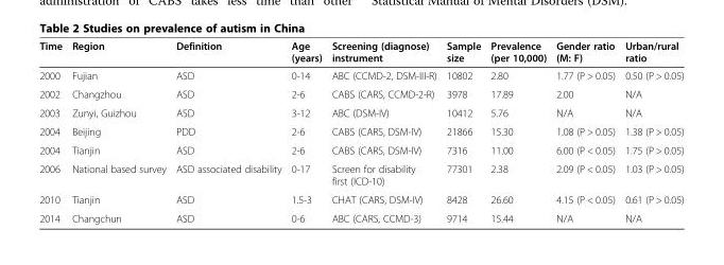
<table><thead><tr><td>Time</td><td>Region</td><td>Definition</td><td>Age (years)</td><td>Screening (diagnose) instrument</td><td>Sample size</td><td>Prevalence (per 10,000)</td><td>Gender ratio (M: F)</td><td>Urban/rural ratio</td></tr></thead><tbody><tr><td>2000</td><td>Fujian</td><td>ASD</td><td>0-14</td><td>ABC (CCMD-2, DSM-III-R)</td><td>10802</td><td>2.80</td><td>1.77 (P &gt; 0.05)</td><td>0.50 (P &gt; 0.05)</td></tr><tr><td>2002</td><td>Changzhou</td><td>ASD</td><td>2-6</td><td>CABS (CARS, CCMD-2-R)</td><td>3978</td><td>17.89</td><td>2.00</td><td>N/A</td></tr><tr><td>2003</td><td>Zunyi, Guizhou</td><td>ASD</td><td>3-12</td><td>ABC (DSM-IV)</td><td>10412</td><td>5.76</td><td>N/A</td><td>N/A</td></tr><tr><td>2004</td><td>Beijing</td><td>PDD</td><td>2-6</td><td>CABS (CARS, DSM-IV)</td><td>21866</td><td>15.30</td><td>1.08 (P &gt; 0.05)</td><td>1.38 (P &gt; 0.05)</td></tr><tr><td>2004</td><td>Tianjin</td><td>ASD</td><td>2-6</td><td>CABS (CARS, DSM-IV)</td><td>7316</td><td>11.00</td><td>6.00 (P &lt; 0.05)</td><td>1.75 (P &gt; 0.05)</td></tr><tr><td>2006</td><td>National based survey</td><td>ASD associated disability</td><td>0-17</td><td>Screen for disability first (ICD-10)</td><td>77301</td><td>2.38</td><td>2.09 (P &lt; 0.05)</td><td>1.03 (P &gt; 0.05)</td></tr><tr><td>2010</td><td>Tianjin</td><td>ASD</td><td>1.5-3</td><td>CHAT (CARS, DSM-IV)</td><td>8428</td><td>26.60</td><td>4.15 (P &lt; 0.05)</td><td>0.61 (P &gt; 0.05)</td></tr><tr><td>2014</td><td>Changchun</td><td>ASD</td><td>0-6</td><td>ABC (CARS, CCMD-3)</td><td>9714</td><td>15.44</td><td>N/A</td><td>N/A</td></tr></tbody></table>